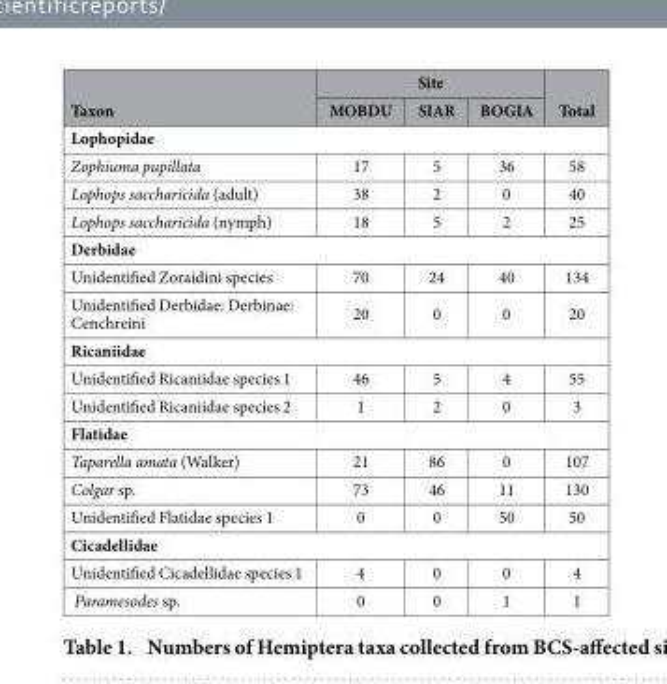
<table><thead><tr><td rowspan="2">Taxon</td><td colspan="3">Site</td><td rowspan="2">Total</td></tr><tr><td>MOBDU</td><td>SIAR</td><td>BOGIA</td></tr></thead><tbody><tr><td colspan="5">Lophopidae</td></tr><tr><td>Zophiuma pupillata</td><td>17</td><td>5</td><td>36</td><td>58</td></tr><tr><td>Lophops saccharicida (adult)</td><td>38</td><td>2</td><td>0</td><td>40</td></tr><tr><td>Lophops saccharicida (nymph)</td><td>18</td><td>5</td><td>2</td><td>25</td></tr><tr><td colspan="5">Derbidae</td></tr><tr><td>Unidentified Zoraidini species</td><td>70</td><td>24</td><td>40</td><td>134</td></tr><tr><td>Unidentified Derbidae: Derbinae: Cenchreini</td><td>20</td><td>0</td><td>0</td><td>20</td></tr><tr><td colspan="5">Ricaniidae</td></tr><tr><td>Unidentified Ricaniidae species 1</td><td>46</td><td>5</td><td>4</td><td>55</td></tr><tr><td>Unidentified Ricaniidae species 2</td><td>1</td><td>2</td><td>0</td><td>3</td></tr><tr><td colspan="5">Flatidae</td></tr><tr><td>Taparella amata (Walker)</td><td>21</td><td>86</td><td>0</td><td>107</td></tr><tr><td>Colgar sp.</td><td>73</td><td>46</td><td>11</td><td>130</td></tr><tr><td>Unidentified Flatidae species 1</td><td>0</td><td>0</td><td>50</td><td>50</td></tr><tr><td colspan="5">Cicadellidae</td></tr><tr><td>Unidentified Cicadellidae species 1</td><td>4</td><td>0</td><td>0</td><td>4</td></tr><tr><td>Paramesodes sp.</td><td>0</td><td>0</td><td>1</td><td>1</td></tr></tbody></table>